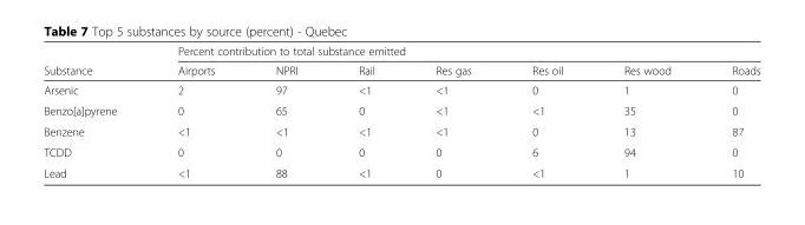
<table><thead><tr><td rowspan="2">Substance</td><td colspan="7">Percent contribution to total substance emitted</td></tr><tr><td>Airports</td><td>NPRI</td><td>Rail</td><td>Res gas</td><td>Res oil</td><td>Res wood</td><td>Roads</td></tr></thead><tbody><tr><td>Arsenic</td><td>2</td><td>97</td><td>&lt;1</td><td>&lt;1</td><td>0</td><td>1</td><td>0</td></tr><tr><td>Benzo[a]pyrene</td><td>0</td><td>65</td><td>0</td><td>&lt;1</td><td>&lt;1</td><td>35</td><td>0</td></tr><tr><td>Benzene</td><td>&lt;1</td><td>&lt;1</td><td>&lt;1</td><td>&lt;1</td><td>0</td><td>13</td><td>87</td></tr><tr><td>TCDD</td><td>0</td><td>0</td><td>0</td><td>0</td><td>6</td><td>94</td><td>0</td></tr><tr><td>Lead</td><td>&lt;1</td><td>88</td><td>&lt;1</td><td>0</td><td>&lt;1</td><td>1</td><td>10</td></tr></tbody></table>